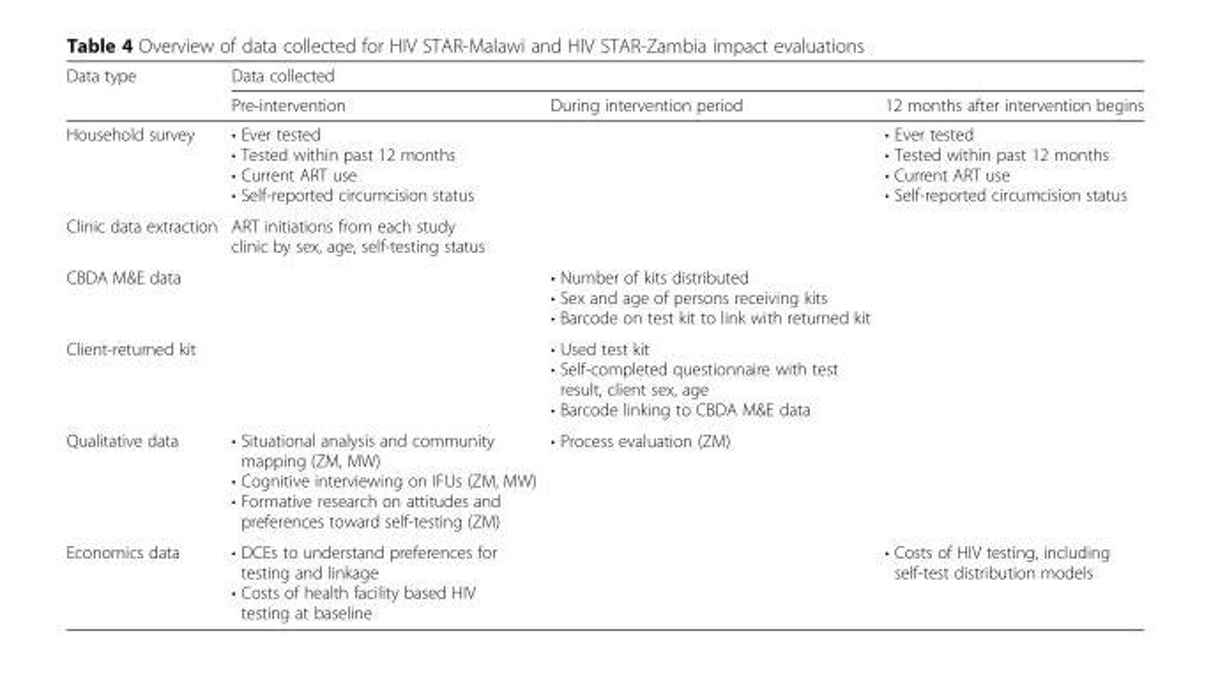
<table><thead><tr><td rowspan="2">Data type</td><td colspan="3">Data collected</td></tr><tr><td>Pre-intervention</td><td>During intervention period</td><td>12 months after intervention begins</td></tr></thead><tbody><tr><td>Household survey</td><td>• Ever tested • Tested within past 12 months • Current ART use • Self-reported circumcision status</td><td></td><td>• Ever tested • Tested within past 12 months • Current ART use • Self-reported circumcision status</td></tr><tr><td>Clinic data extraction</td><td colspan="3">ART initiations from each study clinic by sex, age, self-testing status</td></tr><tr><td>CBDA M&amp;E data</td><td></td><td>• Number of kits distributed • Sex and age of persons receiving kits • Barcode on test kit to link with returned kit</td><td></td></tr><tr><td>Client-returned kit</td><td></td><td>• Used test kit • Self-completed questionnaire with test result, client sex, age • Barcode linking to CBDA M&amp;E data</td><td></td></tr><tr><td>Qualitative data</td><td>• Situational analysis and community mapping (ZM, MW) • Cognitive interviewing on IFUs (ZM, MW) • Formative research on attitudes and preferences toward self-testing (ZM)</td><td>• Process evaluation (ZM)</td><td></td></tr><tr><td>Economics data</td><td>• DCEs to understand preferences for testing and linkage • Costs of health facility based HIV testing at baseline</td><td></td><td>• Costs of HIV testing, including self-test distribution models</td></tr></tbody></table>